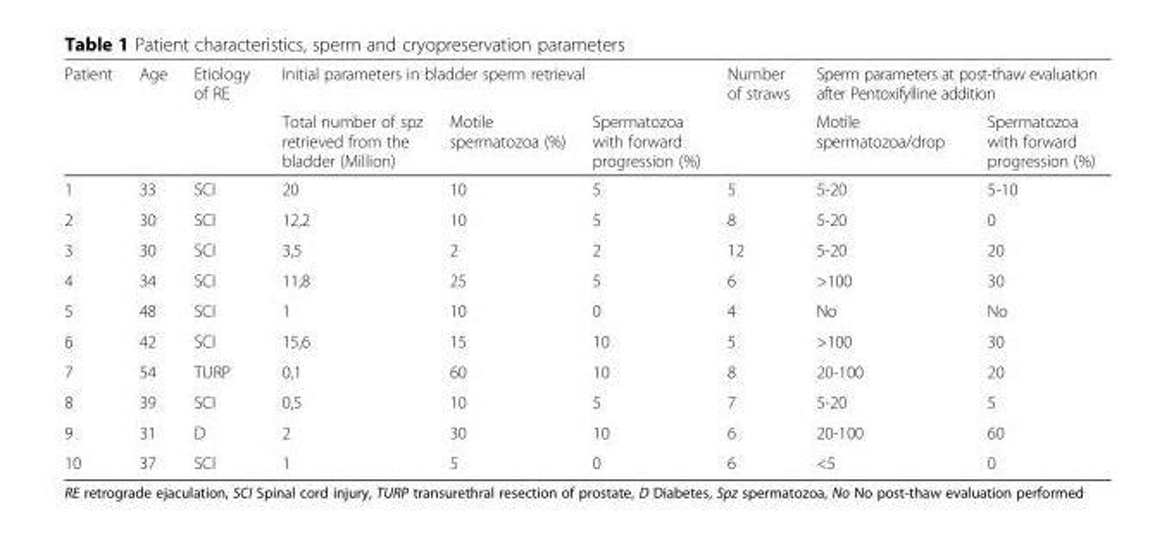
<table><thead><tr><td rowspan="2">Patient</td><td rowspan="2">Age</td><td rowspan="2">Etiology of RE</td><td colspan="3">Initial parameters in bladder sperm retrieval</td><td rowspan="2">Number of straws</td><td colspan="2">Sperm parameters at post-thaw evaluation after Pentoxifylline addition</td></tr><tr><td>Total number of spz retrieved from the bladder (Million)</td><td>Motile spermatozoa (%)</td><td>Spermatozoa with forward progression (%)</td><td>Motile spermatozoa/drop</td><td>Spermatozoa with forward progression (%)</td></tr></thead><tbody><tr><td>1</td><td>33</td><td>SCI</td><td>20</td><td>10</td><td>5</td><td>5</td><td>5-20</td><td>5-10</td></tr><tr><td>2</td><td>30</td><td>SCI</td><td>12,2</td><td>10</td><td>5</td><td>8</td><td>5-20</td><td>0</td></tr><tr><td>3</td><td>30</td><td>SCI</td><td>3,5</td><td>2</td><td>2</td><td>12</td><td>5-20</td><td>20</td></tr><tr><td>4</td><td>34</td><td>SCI</td><td>11,8</td><td>25</td><td>5</td><td>6</td><td>&gt;100</td><td>30</td></tr><tr><td>5</td><td>48</td><td>SCI</td><td>1</td><td>10</td><td>0</td><td>4</td><td>No</td><td>No</td></tr><tr><td>6</td><td>42</td><td>SCI</td><td>15,6</td><td>15</td><td>10</td><td>5</td><td>&gt;100</td><td>30</td></tr><tr><td>7</td><td>54</td><td>TURP</td><td>0,1</td><td>60</td><td>10</td><td>8</td><td>20-100</td><td>20</td></tr><tr><td>8</td><td>39</td><td>SCI</td><td>0,5</td><td>10</td><td>5</td><td>7</td><td>5-20</td><td>5</td></tr><tr><td>9</td><td>31</td><td>D</td><td>2</td><td>30</td><td>10</td><td>6</td><td>20-100</td><td>60</td></tr><tr><td>10</td><td>37</td><td>SCI</td><td>1</td><td>5</td><td>0</td><td>6</td><td>&lt;5</td><td>0</td></tr></tbody></table>